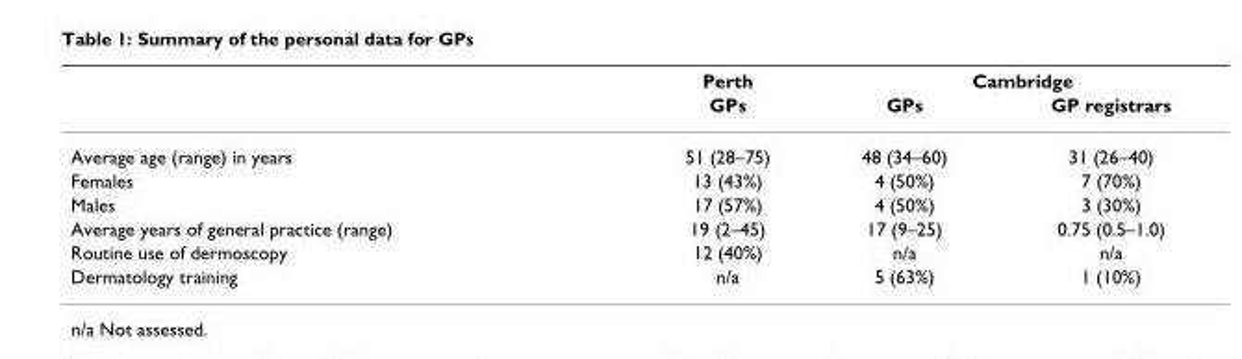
<table><thead><tr><td rowspan="2"></td><td rowspan="2">Perth GPs</td><td colspan="2">Cambridge</td></tr><tr><td>GPs</td><td>GP registrars</td></tr></thead><tbody><tr><td>Average age (range) in years</td><td>51 (28–75)</td><td>48 (34–60)</td><td>31 (26–40)</td></tr><tr><td>Females</td><td>13 (43%)</td><td>4 (50%)</td><td>7 (70%)</td></tr><tr><td>Males</td><td>17 (57%)</td><td>4 (50%)</td><td>3 (30%)</td></tr><tr><td>Average years of general practice (range)</td><td>19 (2–45)</td><td>17 (9–25)</td><td>0.75 (0.5–1.0)</td></tr><tr><td>Routine use of dermoscopy</td><td>12 (40%)</td><td>n/a</td><td>n/a</td></tr><tr><td>Dermatology training</td><td>n/a</td><td>5 (63%)</td><td>1 (10%)</td></tr></tbody></table>